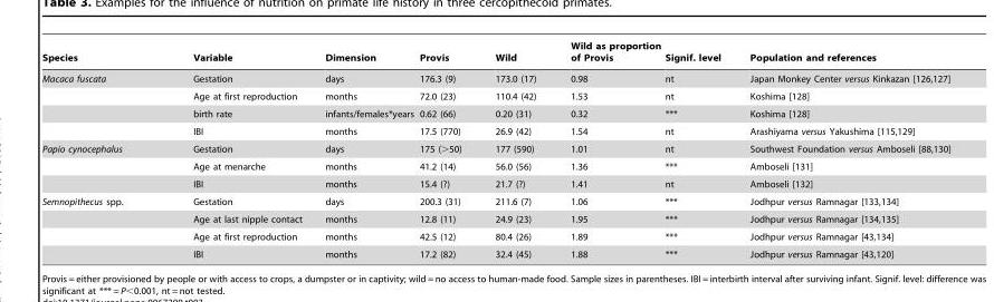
<table><thead><tr><td>Species</td><td>Variable</td><td>Dimension</td><td>Provis</td><td>Wild</td><td>Wild as proportion of Provis</td><td>Signif. level</td><td>Population and references</td></tr></thead><tbody><tr><td rowspan="4">Macaca fuscata</td><td>Gestation</td><td>days</td><td>176.3 (9)</td><td>173.0 (17)</td><td>0.98</td><td>nt</td><td>Japan Monkey Center versus Kinkazan [126,127]</td></tr><tr><td>Age at first reproduction</td><td>months</td><td>72.0 (23)</td><td>110.4 (42)</td><td>1.53</td><td>nt</td><td>Koshima [128]</td></tr><tr><td>birth rate</td><td>infants/females*years</td><td>0.62 (66)</td><td>0.20 (31)</td><td>0.32</td><td>***</td><td>Koshima [128]</td></tr><tr><td>IBI</td><td>months</td><td>17.5 (770)</td><td>26.9 (42)</td><td>1.54</td><td>nt</td><td>Arashiyama versus Yakushima [115,129]</td></tr><tr><td rowspan="3">Papio cynocephalus</td><td>Gestation</td><td>days</td><td>175 (&gt;50)</td><td>177 (590)</td><td>1.01</td><td>nt</td><td>Southwest Foundation versus Amboseli [88,130]</td></tr><tr><td>Age at menarche</td><td>months</td><td>41.2 (14)</td><td>56.0 (56)</td><td>1.36</td><td>***</td><td>Amboseli [131]</td></tr><tr><td>IBI</td><td>months</td><td>15.4 (?)</td><td>21.7 (?)</td><td>1.41</td><td>nt</td><td>Amboseli [132]</td></tr><tr><td rowspan="4">Semnopithecus spp.</td><td>Gestation</td><td>days</td><td>200.3 (31)</td><td>211.6 (7)</td><td>1.06</td><td>***</td><td>Jodhpur versus Ramnagar [133,134]</td></tr><tr><td>Age at last nipple contact</td><td>months</td><td>12.8 (11)</td><td>24.9 (23)</td><td>1.95</td><td>***</td><td>Jodhpur versus Ramnagar [134,135]</td></tr><tr><td>Age at first reproduction</td><td>months</td><td>42.5 (12)</td><td>80.4 (26)</td><td>1.89</td><td>***</td><td>Jodhpur versus Ramnagar [43,134]</td></tr><tr><td>IBI</td><td>months</td><td>17.2 (82)</td><td>32.4 (45)</td><td>1.88</td><td>***</td><td>Jodhpur versus Ramnagar [43,120]</td></tr></tbody></table>